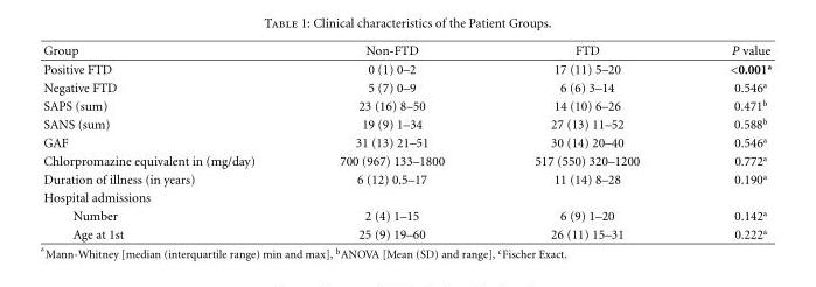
<table><thead><tr><td>Group</td><td>Non-FTD</td><td>FTD</td><td>P value</td></tr></thead><tbody><tr><td>Positive FTD</td><td>0 (1) 0–2</td><td>17 (11) 5–20</td><td>&lt;0.001a</td></tr><tr><td>Negative FTD</td><td>5 (7) 0–9</td><td>6 (6) 3–14</td><td>0.546<sup>a</sup></td></tr><tr><td>SAPS (sum)</td><td>23 (16) 8–50</td><td>14 (10) 6–26</td><td>0.471<sup>b</sup></td></tr><tr><td>SANS (sum)</td><td>19 (9) 1–34</td><td>27 (13) 11–52</td><td>0.588<sup>b</sup></td></tr><tr><td>GAF</td><td>31 (13) 21–51</td><td>30 (14) 20–40</td><td>0.546<sup>a</sup></td></tr><tr><td>Chlorpromazine equivalent in (mg/day)</td><td>700 (967) 133–1800</td><td>517 (550) 320–1200</td><td>0.772<sup>a</sup></td></tr><tr><td>Duration of illness (in years)</td><td>6 (12) 0.5–17</td><td>11 (14) 8–28</td><td>0.190<sup>a</sup></td></tr><tr><td colspan="4">Hospital admissions</td></tr><tr><td>Number</td><td>2 (4) 1–15</td><td>6 (9) 1–20</td><td>0.142<sup>a</sup></td></tr><tr><td>Age at 1st</td><td>25 (9) 19–60</td><td>26 (11) 15–31</td><td>0.222<sup>a</sup></td></tr></tbody></table>